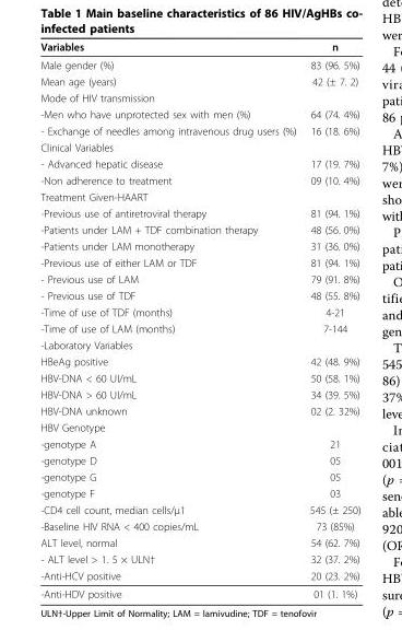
<table><thead><tr><td>Variables</td><td>n</td></tr></thead><tbody><tr><td>Male gender (%)</td><td>83 (96. 5%)</td></tr><tr><td>Mean age (years)</td><td>42 (± 7. 2)</td></tr><tr><td colspan="2">Mode of HIV transmission</td></tr><tr><td>-Men who have unprotected sex with men (%)</td><td>64 (74. 4%)</td></tr><tr><td>- Exchange of needles among intravenous drug users (%)</td><td>16 (18. 6%)</td></tr><tr><td colspan="2">Clinical Variables</td></tr><tr><td>- Advanced hepatic disease</td><td>17 (19. 7%)</td></tr><tr><td>-Non adherence to treatment</td><td>09 (10. 4%)</td></tr><tr><td colspan="2">Treatment Given-HAART</td></tr><tr><td>-Previous use of antiretroviral therapy</td><td>81 (94. 1%)</td></tr><tr><td>-Patients under LAM + TDF combination therapy</td><td>48 (56. 0%)</td></tr><tr><td>-Patients under LAM monotherapy</td><td>31 (36. 0%)</td></tr><tr><td>-Previous use of either LAM or TDF</td><td>81 (94. 1%)</td></tr><tr><td>- Previous use of LAM</td><td>79 (91. 8%)</td></tr><tr><td>- Previous use of TDF</td><td>48 (55. 8%)</td></tr><tr><td>-Time of use of TDF (months)</td><td>4-21</td></tr><tr><td>-Time of use of LAM (months)</td><td>7-144</td></tr><tr><td colspan="2">-Laboratory Variables</td></tr><tr><td>HBeAg positive</td><td>42 (48. 9%)</td></tr><tr><td>HBV-DNA &lt; 60 UI/mL</td><td>50 (58. 1%)</td></tr><tr><td>HBV-DNA &gt; 60 UI/mL</td><td>34 (39. 5%)</td></tr><tr><td>HBV-DNA unknown</td><td>02 (2. 32%)</td></tr><tr><td colspan="2">HBV Genotype</td></tr><tr><td>-genotype A</td><td>21</td></tr><tr><td>-genotype D</td><td>05</td></tr><tr><td>-genotype G</td><td>05</td></tr><tr><td>-genotype F</td><td>03</td></tr><tr><td>-CD4 cell count, median cells/μ1</td><td>545 (± 250)</td></tr><tr><td>-Baseline HIV RNA &lt; 400 copies/mL</td><td>73 (85%)</td></tr><tr><td>ALT level, normal</td><td>54 (62. 7%)</td></tr><tr><td>- ALT level &gt; 1. 5 × ULN†</td><td>32 (37. 2%)</td></tr><tr><td>-Anti-HCV positive</td><td>20 (23. 2%)</td></tr><tr><td>-Anti-HDV positive</td><td>01 (1. 1%)</td></tr></tbody></table>